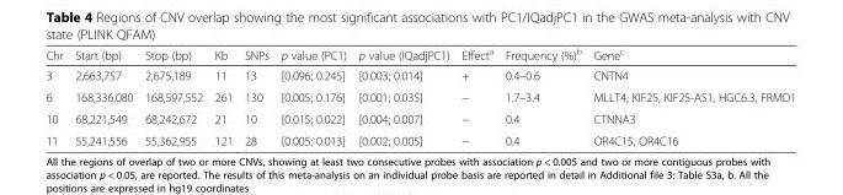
<table><thead><tr><td>Chr</td><td>Start (bp)</td><td>Stop (bp)</td><td>Kb</td><td>SNPs</td><td>p value (PC1)</td><td>p value (IQadjPC1)</td><td>Effect<sup>a</sup></td><td>Frequency (%)<sup>b</sup></td><td>Gene<sup>c</sup></td></tr></thead><tbody><tr><td>3</td><td>2,663,757</td><td>2,675,189</td><td>11</td><td>13</td><td>[0.096; 0.245]</td><td>[0.003; 0.014]</td><td>+</td><td>0.4–0.6</td><td>CNTN4</td></tr><tr><td>6</td><td>168,336,080</td><td>168,597,552</td><td>261</td><td>130</td><td>[0.005; 0.176]</td><td>[0.001; 0.035]</td><td>−</td><td>1.7–3.4</td><td>MLLT4, KIF25, KIF25-AS1, HGC6.3, FRMD1</td></tr><tr><td>10</td><td>68,221,549</td><td>68,242,672</td><td>21</td><td>10</td><td>[0.015; 0.022]</td><td>[0.004; 0.007]</td><td>−</td><td>0.4</td><td>CTNNA3</td></tr><tr><td>11</td><td>55,241,556</td><td>55,362,955</td><td>121</td><td>28</td><td>[0.005; 0.013]</td><td>[0.002; 0.005]</td><td>−</td><td>0.4</td><td>OR4C15, OR4C16</td></tr></tbody></table>